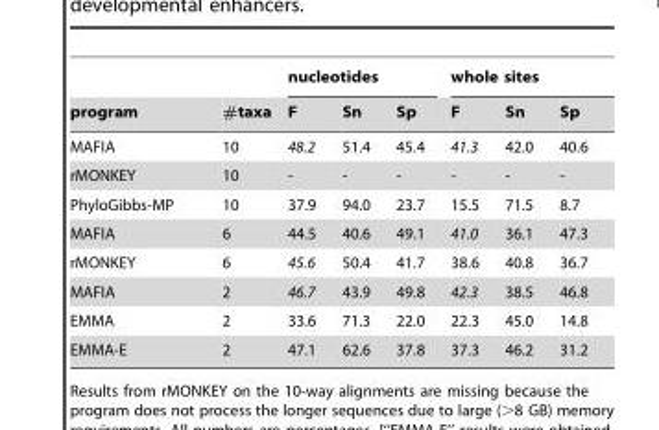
<table><thead><tr><td rowspan="2">program</td><td rowspan="2">#taxa</td><td colspan="3">nucleotides</td><td colspan="3">whole sites</td></tr><tr><td>F</td><td>Sn</td><td>Sp</td><td>F</td><td>Sn</td><td>Sp</td></tr></thead><tbody><tr><td>MAFIA</td><td>10</td><td>48.2</td><td>51.4</td><td>45.4</td><td>41.3</td><td>42.0</td><td>40.6</td></tr><tr><td>rMONKEY</td><td>10</td><td>-</td><td>-</td><td>-</td><td>-</td><td>-</td><td>-</td></tr><tr><td>PhyloGibbs-MP</td><td>10</td><td>37.9</td><td>94.0</td><td>23.7</td><td>15.5</td><td>71.5</td><td>8.7</td></tr><tr><td>MAFIA</td><td>6</td><td>44.5</td><td>40.6</td><td>49.1</td><td>41.0</td><td>36.1</td><td>47.3</td></tr><tr><td>rMONKEY</td><td>6</td><td>45.6</td><td>50.4</td><td>41.7</td><td>38.6</td><td>40.8</td><td>36.7</td></tr><tr><td>MAFIA</td><td>2</td><td>46.7</td><td>43.9</td><td>49.8</td><td>42.3</td><td>38.5</td><td>46.8</td></tr><tr><td>EMMA</td><td>2</td><td>33.6</td><td>71.3</td><td>22.0</td><td>22.3</td><td>45.0</td><td>14.8</td></tr><tr><td>EMMA-E</td><td>2</td><td>47.1</td><td>62.6</td><td>37.8</td><td>37.3</td><td>46.2</td><td>31.2</td></tr></tbody></table>